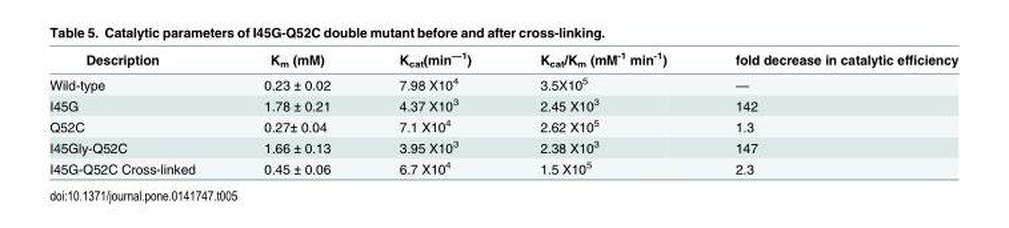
<table><thead><tr><td>Description</td><td>K<sub>m</sub> (mM)</td><td>K<sub>cat</sub>(min<sup>—1</sup>)</td><td>K<sub>cat</sub>/K<sub>m</sub> (mM<sup>-1</sup> min<sup>-1</sup>)</td><td>fold decrease in catalytic efficiency</td></tr></thead><tbody><tr><td>Wild-type</td><td>0.23 ± 0.02</td><td>7.98 X10<sup>4</sup></td><td>3.5X10<sup>5</sup></td><td>—</td></tr><tr><td>I45G</td><td>1.78 ± 0.21</td><td>4.37 X10<sup>3</sup></td><td>2.45 X10<sup>3</sup></td><td>142</td></tr><tr><td>Q52C</td><td>0.27± 0.04</td><td>7.1 X10<sup>4</sup></td><td>2.62 X10<sup>5</sup></td><td>1.3</td></tr><tr><td>I45Gly-Q52C</td><td>1.66 ± 0.13</td><td>3.95 X10<sup>3</sup></td><td>2.38 X10<sup>3</sup></td><td>147</td></tr><tr><td>I45G-Q52C Cross-linked</td><td>0.45 ± 0.06</td><td>6.7 X10<sup>4</sup></td><td>1.5 X10<sup>5</sup></td><td>2.3</td></tr></tbody></table>